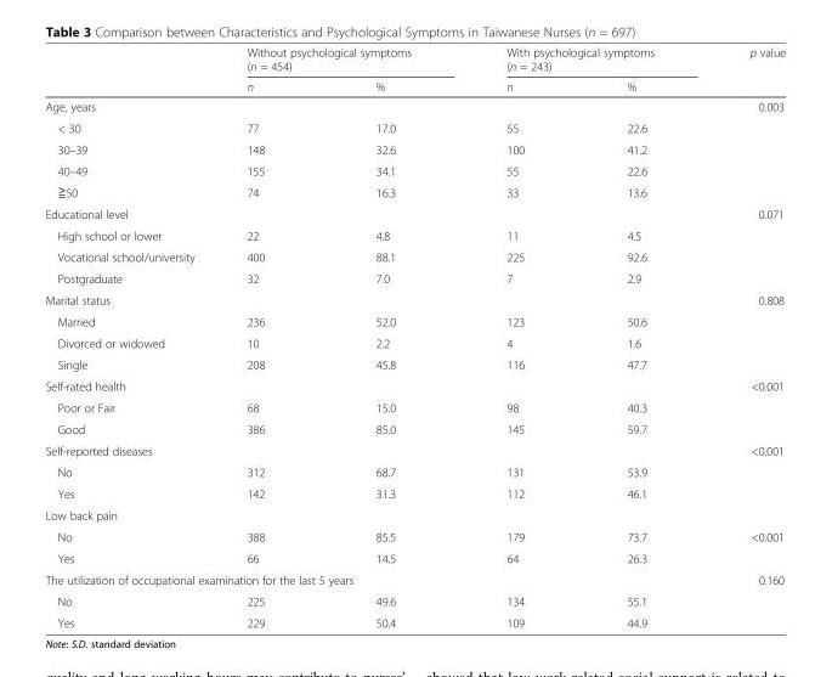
<table><thead><tr><td rowspan="2"></td><td colspan="2">Without psychological symptoms (n = 454)</td><td colspan="2">With psychological symptoms (n = 243)</td><td rowspan="2">p value</td></tr><tr><td>n</td><td>%</td><td>n</td><td>%</td></tr></thead><tbody><tr><td colspan="5">Age, years</td><td>0.003</td></tr><tr><td>&lt; 30</td><td>77</td><td>17.0</td><td>55</td><td>22.6</td><td></td></tr><tr><td>30–39</td><td>148</td><td>32.6</td><td>100</td><td>41.2</td><td></td></tr><tr><td>40–49</td><td>155</td><td>34.1</td><td>55</td><td>22.6</td><td></td></tr><tr><td>≧50</td><td>74</td><td>16.3</td><td>33</td><td>13.6</td><td></td></tr><tr><td colspan="5">Educational level</td><td>0.071</td></tr><tr><td>High school or lower</td><td>22</td><td>4.8</td><td>11</td><td>4.5</td><td></td></tr><tr><td>Vocational school/university</td><td>400</td><td>88.1</td><td>225</td><td>92.6</td><td></td></tr><tr><td>Postgraduate</td><td>32</td><td>7.0</td><td>7</td><td>2.9</td><td></td></tr><tr><td colspan="5">Marital status</td><td>0.808</td></tr><tr><td>Married</td><td>236</td><td>52.0</td><td>123</td><td>50.6</td><td></td></tr><tr><td>Divorced or widowed</td><td>10</td><td>2.2</td><td>4</td><td>1.6</td><td></td></tr><tr><td>Single</td><td>208</td><td>45.8</td><td>116</td><td>47.7</td><td></td></tr><tr><td colspan="5">Self-rated health</td><td>&lt;0.001</td></tr><tr><td>Poor or Fair</td><td>68</td><td>15.0</td><td>98</td><td>40.3</td><td></td></tr><tr><td>Good</td><td>386</td><td>85.0</td><td>145</td><td>59.7</td><td></td></tr><tr><td colspan="5">Self-reported diseases</td><td>&lt;0.001</td></tr><tr><td>No</td><td>312</td><td>68.7</td><td>131</td><td>53.9</td><td></td></tr><tr><td>Yes</td><td>142</td><td>31.3</td><td>112</td><td>46.1</td><td></td></tr><tr><td colspan="6">Low back pain</td></tr><tr><td>No</td><td>388</td><td>85.5</td><td>179</td><td>73.7</td><td>&lt;0.001</td></tr><tr><td>Yes</td><td>66</td><td>14.5</td><td>64</td><td>26.3</td><td></td></tr><tr><td colspan="5">The utilization of occupational examination for the last 5 years</td><td>0.160</td></tr><tr><td>No</td><td>225</td><td>49.6</td><td>134</td><td>55.1</td><td></td></tr><tr><td>Yes</td><td>229</td><td>50.4</td><td>109</td><td>44.9</td><td></td></tr></tbody></table>